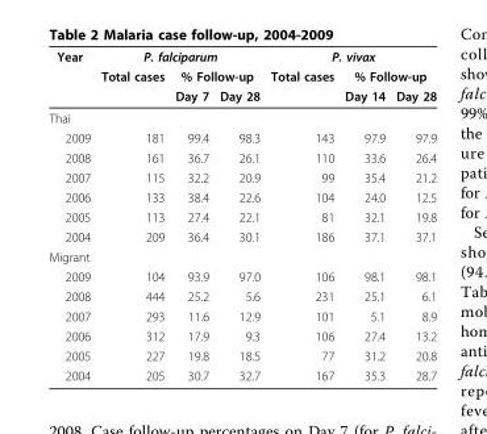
<table><thead><tr><td rowspan="3">Year</td><td colspan="3">P. falciparum</td><td colspan="3">P. vivax</td></tr><tr><td rowspan="2">Total cases</td><td colspan="2">% Follow-up</td><td rowspan="2">Total cases</td><td colspan="2">% Follow-up</td></tr><tr><td>Day 7</td><td>Day 28</td><td>Day 14</td><td>Day 28</td></tr></thead><tbody><tr><td colspan="7">Thai</td></tr><tr><td>2009</td><td>181</td><td>99.4</td><td>98.3</td><td>143</td><td>97.9</td><td>97.9</td></tr><tr><td>2008</td><td>161</td><td>36.7</td><td>26.1</td><td>110</td><td>33.6</td><td>26.4</td></tr><tr><td>2007</td><td>115</td><td>32.2</td><td>20.9</td><td>99</td><td>35.4</td><td>21.2</td></tr><tr><td>2006</td><td>133</td><td>38.4</td><td>22.6</td><td>104</td><td>24.0</td><td>12.5</td></tr><tr><td>2005</td><td>113</td><td>27.4</td><td>22.1</td><td>81</td><td>32.1</td><td>19.8</td></tr><tr><td>2004</td><td>209</td><td>36.4</td><td>30.1</td><td>186</td><td>37.1</td><td>37.1</td></tr><tr><td colspan="7">Migrant</td></tr><tr><td>2009</td><td>104</td><td>93.9</td><td>97.0</td><td>106</td><td>98.1</td><td>98.1</td></tr><tr><td>2008</td><td>444</td><td>25.2</td><td>5.6</td><td>231</td><td>25.1</td><td>6.1</td></tr><tr><td>2007</td><td>293</td><td>11.6</td><td>12.9</td><td>101</td><td>5.1</td><td>8.9</td></tr><tr><td>2006</td><td>312</td><td>17.9</td><td>9.3</td><td>106</td><td>27.4</td><td>13.2</td></tr><tr><td>2005</td><td>227</td><td>19.8</td><td>18.5</td><td>77</td><td>31.2</td><td>20.8</td></tr><tr><td>2004</td><td>205</td><td>30.7</td><td>32.7</td><td>167</td><td>35.3</td><td>28.7</td></tr></tbody></table>